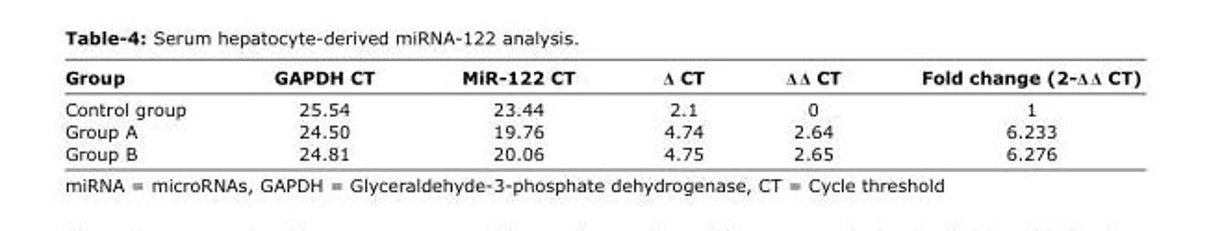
<table><thead><tr><td>Group</td><td>GAPDH CT</td><td>MiR-122 CT</td><td>Δ CT</td><td>Δ Δ CT</td><td>Fold change (2-Δ Δ CT)</td></tr></thead><tbody><tr><td>Control group</td><td>25.54</td><td>23.44</td><td>2.1</td><td>0</td><td>1</td></tr><tr><td>Group A</td><td>24.50</td><td>19.76</td><td>4.74</td><td>2.64</td><td>6.233</td></tr><tr><td>Group B</td><td>24.81</td><td>20.06</td><td>4.75</td><td>2.65</td><td>6.276</td></tr></tbody></table>